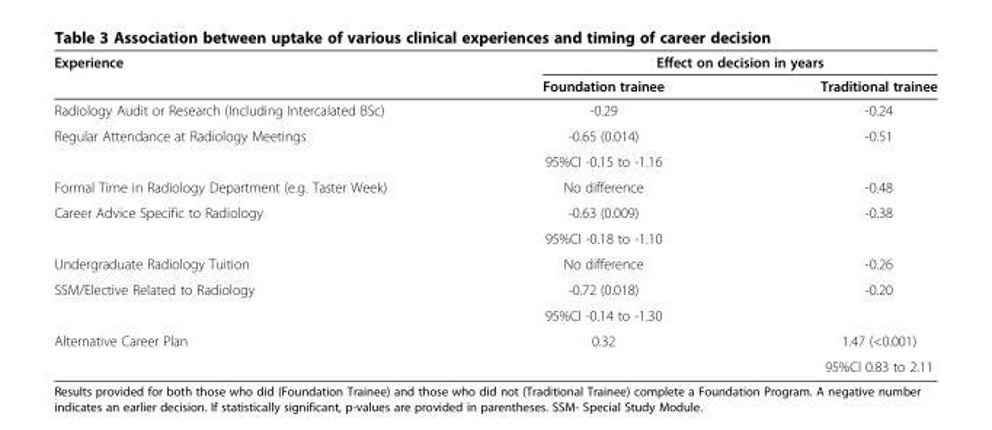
<table><thead><tr><td rowspan="2">Experience</td><td colspan="2">Effect on decision in years</td></tr><tr><td>Foundation trainee</td><td>Traditional trainee</td></tr></thead><tbody><tr><td>Radiology Audit or Research (Including Intercalated BSc)</td><td>-0.29</td><td>-0.24</td></tr><tr><td rowspan="2">Regular Attendance at Radiology Meetings</td><td>-0.65 (0.014)</td><td rowspan="2">-0.51</td></tr><tr><td>95%CI -0.15 to -1.16</td></tr><tr><td>Formal Time in Radiology Department (e.g. Taster Week)</td><td>No difference</td><td>-0.48</td></tr><tr><td rowspan="2">Career Advice Specific to Radiology</td><td>-0.63 (0.009)</td><td rowspan="2">-0.38</td></tr><tr><td>95%CI -0.18 to -1.10</td></tr><tr><td>Undergraduate Radiology Tuition</td><td>No difference</td><td>-0.26</td></tr><tr><td rowspan="2">SSM/Elective Related to Radiology</td><td>-0.72 (0.018)</td><td rowspan="2">-0.20</td></tr><tr><td>95%CI -0.14 to -1.30</td></tr><tr><td rowspan="2">Alternative Career Plan</td><td>0.32</td><td>1.47 (&lt;0.001)</td></tr><tr><td></td><td>95%CI 0.83 to 2.11</td></tr></tbody></table>